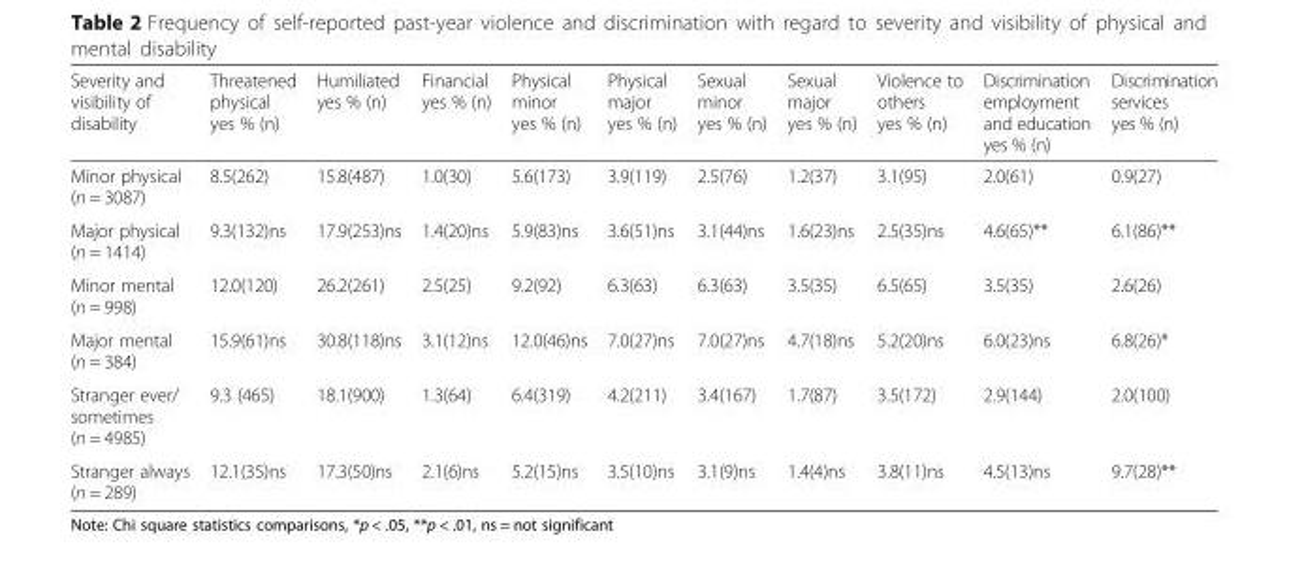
<table><thead><tr><td>Severity and visibility of disability</td><td>Threatened physical yes % (n)</td><td>Humiliated yes % (n)</td><td>Financial yes % (n)</td><td>Physical minor yes % (n)</td><td>Physical major yes % (n)</td><td>Sexual minor yes % (n)</td><td>Sexual major yes % (n)</td><td>Violence to others yes % (n)</td><td>Discrimination employment and education yes % (n)</td><td>Discrimination services yes % (n)</td></tr></thead><tbody><tr><td>Minor physical (n = 3087)</td><td>8.5(262)</td><td>15.8(487)</td><td>1.0(30)</td><td>5.6(173)</td><td>3.9(119)</td><td>2.5(76)</td><td>1.2(37)</td><td>3.1(95)</td><td>2.0(61)</td><td>0.9(27)</td></tr><tr><td>Major physical (n = 1414)</td><td>9.3(132)ns</td><td>17.9(253)ns</td><td>1.4(20)ns</td><td>5.9(83)ns</td><td>3.6(51)ns</td><td>3.1(44)ns</td><td>1.6(23)ns</td><td>2.5(35)ns</td><td>4.6(65)**</td><td>6.1(86)**</td></tr><tr><td>Minor mental (n = 998)</td><td>12.0(120)</td><td>26.2(261)</td><td>2.5(25)</td><td>9.2(92)</td><td>6.3(63)</td><td>6.3(63)</td><td>3.5(35)</td><td>6.5(65)</td><td>3.5(35)</td><td>2.6(26)</td></tr><tr><td>Major mental (n = 384)</td><td>15.9(61)ns</td><td>30.8(118)ns</td><td>3.1(12)ns</td><td>12.0(46)ns</td><td>7.0(27)ns</td><td>7.0(27)ns</td><td>4.7(18)ns</td><td>5.2(20)ns</td><td>6.0(23)ns</td><td>6.8(26)*</td></tr><tr><td>Stranger ever/ sometimes (n = 4985)</td><td>9.3 (465)</td><td>18.1(900)</td><td>1.3(64)</td><td>6.4(319)</td><td>4.2(211)</td><td>3.4(167)</td><td>1.7(87)</td><td>3.5(172)</td><td>2.9(144)</td><td>2.0(100)</td></tr><tr><td>Stranger always (n = 289)</td><td>12.1(35)ns</td><td>17.3(50)ns</td><td>2.1(6)ns</td><td>5.2(15)ns</td><td>3.5(10)ns</td><td>3.1(9)ns</td><td>1.4(4)ns</td><td>3.8(11)ns</td><td>4.5(13)ns</td><td>9.7(28)**</td></tr></tbody></table>